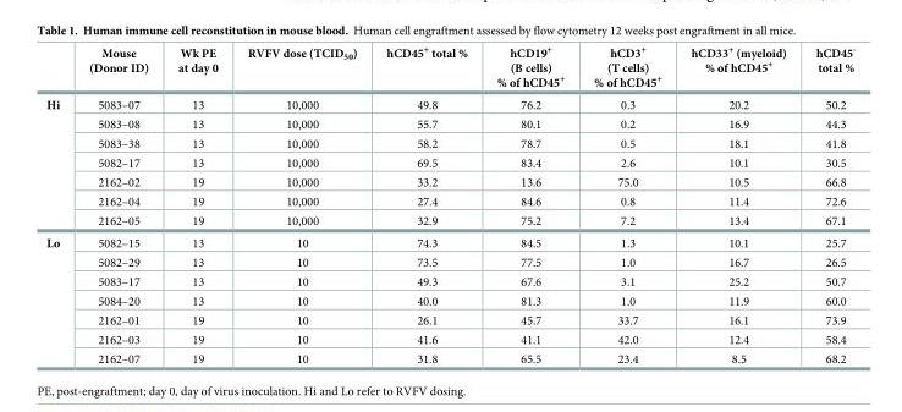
<table><thead><tr><td></td><td>Mouse (Donor ID)</td><td>Wk PE at day 0</td><td>RVFV dose (TCID<sub>50</sub>)</td><td>hCD45<sup>+</sup> total %</td><td>hCD19<sup>+</sup> (B cells) % of hCD45<sup>+</sup></td><td>hCD3<sup>+</sup> (T cells) % of hCD45<sup>+</sup></td><td>hCD33<sup>+</sup> (myeloid) % of hCD45<sup>+</sup></td><td>hCD45<sup>-</sup> total %</td></tr></thead><tbody><tr><td rowspan="7">Hi</td><td>5083–07</td><td>13</td><td>10,000</td><td>49.8</td><td>76.2</td><td>0.3</td><td>20.2</td><td>50.2</td></tr><tr><td>5083–08</td><td>13</td><td>10,000</td><td>55.7</td><td>80.1</td><td>0.2</td><td>16.9</td><td>44.3</td></tr><tr><td>5083–38</td><td>13</td><td>10,000</td><td>58.2</td><td>78.7</td><td>0.5</td><td>18.1</td><td>41.8</td></tr><tr><td>5082–17</td><td>13</td><td>10,000</td><td>69.5</td><td>83.4</td><td>2.6</td><td>10.1</td><td>30.5</td></tr><tr><td>2162–02</td><td>19</td><td>10,000</td><td>33.2</td><td>13.6</td><td>75.0</td><td>10.5</td><td>66.8</td></tr><tr><td>2162–04</td><td>19</td><td>10,000</td><td>27.4</td><td>84.6</td><td>0.8</td><td>11.4</td><td>72.6</td></tr><tr><td>2162–05</td><td>19</td><td>10,000</td><td>32.9</td><td>75.2</td><td>7.2</td><td>13.4</td><td>67.1</td></tr><tr><td rowspan="7">Lo</td><td>5082–15</td><td>13</td><td>10</td><td>74.3</td><td>84.5</td><td>1.3</td><td>10.1</td><td>25.7</td></tr><tr><td>5082–29</td><td>13</td><td>10</td><td>73.5</td><td>77.5</td><td>1.0</td><td>16.7</td><td>26.5</td></tr><tr><td>5083–17</td><td>13</td><td>10</td><td>49.3</td><td>67.6</td><td>3.1</td><td>25.2</td><td>50.7</td></tr><tr><td>5084–20</td><td>13</td><td>10</td><td>40.0</td><td>81.3</td><td>1.0</td><td>11.9</td><td>60.0</td></tr><tr><td>2162–01</td><td>19</td><td>10</td><td>26.1</td><td>45.7</td><td>33.7</td><td>16.1</td><td>73.9</td></tr><tr><td>2162–03</td><td>19</td><td>10</td><td>41.6</td><td>41.1</td><td>42.0</td><td>12.4</td><td>58.4</td></tr><tr><td>2162–07</td><td>19</td><td>10</td><td>31.8</td><td>65.5</td><td>23.4</td><td>8.5</td><td>68.2</td></tr></tbody></table>